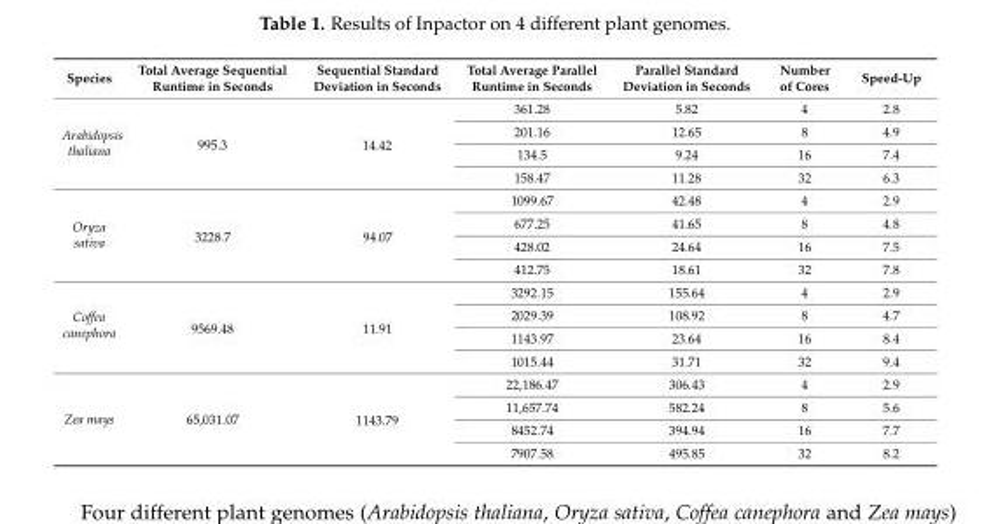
<table><thead><tr><td>Species</td><td>Total Average Sequential Runtime in Seconds</td><td>Sequential Standard Deviation in Seconds</td><td>Total Average Parallel Runtime in Seconds</td><td>Parallel Standard Deviation in Seconds</td><td>Number of Cores</td><td>Speed-Up</td></tr></thead><tbody><tr><td rowspan="4">Arabidopsis thaliana</td><td rowspan="4">995.3</td><td rowspan="4">14.42</td><td>361.28</td><td>5.82</td><td>4</td><td>2.8</td></tr><tr><td>201.16</td><td>12.65</td><td>8</td><td>4.9</td></tr><tr><td>134.5</td><td>9.24</td><td>16</td><td>7.4</td></tr><tr><td>158.47</td><td>11.28</td><td>32</td><td>6.3</td></tr><tr><td rowspan="4">Oryza sativa</td><td rowspan="4">3228.7</td><td rowspan="4">94.07</td><td>1099.67</td><td>42.48</td><td>4</td><td>2.9</td></tr><tr><td>677.25</td><td>41.65</td><td>8</td><td>4.8</td></tr><tr><td>428.02</td><td>24.64</td><td>16</td><td>7.5</td></tr><tr><td>412.75</td><td>18.61</td><td>32</td><td>7.8</td></tr><tr><td rowspan="4">Coffea canephora</td><td rowspan="4">9569.48</td><td rowspan="4">11.91</td><td>3292.15</td><td>155.64</td><td>4</td><td>2.9</td></tr><tr><td>2029.39</td><td>108.92</td><td>8</td><td>4.7</td></tr><tr><td>1143.97</td><td>23.64</td><td>16</td><td>8.4</td></tr><tr><td>1015.44</td><td>31.71</td><td>32</td><td>9.4</td></tr><tr><td rowspan="4">Zea mays</td><td rowspan="4">65,031.07</td><td rowspan="4">1143.79</td><td>22,186.47</td><td>306.43</td><td>4</td><td>2.9</td></tr><tr><td>11,657.74</td><td>582.24</td><td>8</td><td>5.6</td></tr><tr><td>8452.74</td><td>394.94</td><td>16</td><td>7.7</td></tr><tr><td>7907.58</td><td>495.85</td><td>32</td><td>8.2</td></tr></tbody></table>